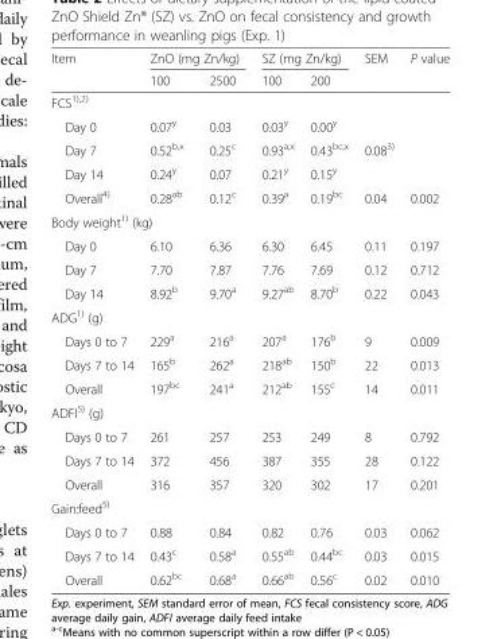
<table><thead><tr><td rowspan="2">Item</td><td colspan="2">ZnO (mg Zn/kg)</td><td colspan="2">SZ (mg Zn/kg)</td><td rowspan="2">SEM</td><td rowspan="2">P value</td></tr><tr><td>100</td><td>2500</td><td>100</td><td>200</td></tr></thead><tbody><tr><td colspan="7">FCS<sup>1),2)</sup></td></tr><tr><td>Day 0</td><td>0.07<sup>y</sup></td><td>0.03</td><td>0.03<sup>y</sup></td><td>0.00<sup>y</sup></td><td></td><td></td></tr><tr><td>Day 7</td><td>0.52<sup>b,x</sup></td><td>0.25<sup>c</sup></td><td>0.93<sup>a,x</sup></td><td>0.43<sup>bc,x</sup></td><td>0.08<sup>3)</sup></td><td></td></tr><tr><td>Day 14</td><td>0.24<sup>y</sup></td><td>0.07</td><td>0.21<sup>y</sup></td><td>0.15<sup>y</sup></td><td></td><td></td></tr><tr><td>Overall<sup>4)</sup></td><td>0.28<sup>ab</sup></td><td>0.12<sup>c</sup></td><td>0.39<sup>a</sup></td><td>0.19<sup>bc</sup></td><td>0.04</td><td>0.002</td></tr><tr><td colspan="7">Body weight<sup>1)</sup> (kg)</td></tr><tr><td>Day 0</td><td>6.10</td><td>6.36</td><td>6.30</td><td>6.45</td><td>0.11</td><td>0.197</td></tr><tr><td>Day 7</td><td>7.70</td><td>7.87</td><td>7.76</td><td>7.69</td><td>0.12</td><td>0.712</td></tr><tr><td>Day 14</td><td>8.92<sup>b</sup></td><td>9.70<sup>a</sup></td><td>9.27<sup>ab</sup></td><td>8.70<sup>b</sup></td><td>0.22</td><td>0.043</td></tr><tr><td colspan="7">ADG<sup>1)</sup> (g)</td></tr><tr><td>Days 0 to 7</td><td>229<sup>a</sup></td><td>216<sup>a</sup></td><td>207<sup>a</sup></td><td>176<sup>b</sup></td><td>9</td><td>0.009</td></tr><tr><td>Days 7 to 14</td><td>165<sup>b</sup></td><td>262<sup>a</sup></td><td>218<sup>ab</sup></td><td>150<sup>b</sup></td><td>22</td><td>0.013</td></tr><tr><td>Overall</td><td>197<sup>bc</sup></td><td>241<sup>a</sup></td><td>212<sup>ab</sup></td><td>155<sup>c</sup></td><td>14</td><td>0.011</td></tr><tr><td colspan="7">ADFI<sup>5)</sup> (g)</td></tr><tr><td>Days 0 to 7</td><td>261</td><td>257</td><td>253</td><td>249</td><td>8</td><td>0.792</td></tr><tr><td>Days 7 to 14</td><td>372</td><td>456</td><td>387</td><td>355</td><td>28</td><td>0.122</td></tr><tr><td>Overall</td><td>316</td><td>357</td><td>320</td><td>302</td><td>17</td><td>0.201</td></tr><tr><td colspan="7">Gain:feed<sup>5)</sup></td></tr><tr><td>Days 0 to 7</td><td>0.88</td><td>0.84</td><td>0.82</td><td>0.76</td><td>0.03</td><td>0.062</td></tr><tr><td>Days 7 to 14</td><td>0.43<sup>c</sup></td><td>0.58<sup>a</sup></td><td>0.55<sup>ab</sup></td><td>0.44<sup>bc</sup></td><td>0.03</td><td>0.015</td></tr><tr><td>Overall</td><td>0.62<sup>bc</sup></td><td>0.68<sup>a</sup></td><td>0.66<sup>ab</sup></td><td>0.56<sup>c</sup></td><td>0.02</td><td>0.010</td></tr></tbody></table>